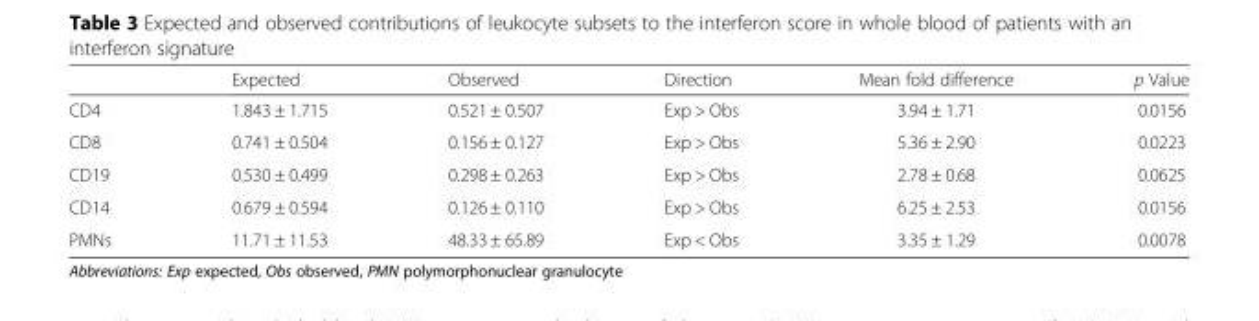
<table><thead><tr><td></td><td>Expected</td><td>Observed</td><td>Direction</td><td>Mean fold difference</td><td>p Value</td></tr></thead><tbody><tr><td>CD4</td><td>1.843 ± 1.715</td><td>0.521 ± 0.507</td><td>Exp &gt; Obs</td><td>3.94 ± 1.71</td><td>0.0156</td></tr><tr><td>CD8</td><td>0.741 ± 0.504</td><td>0.156 ± 0.127</td><td>Exp &gt; Obs</td><td>5.36 ± 2.90</td><td>0.0223</td></tr><tr><td>CD19</td><td>0.530 ± 0.499</td><td>0.298 ± 0.263</td><td>Exp &gt; Obs</td><td>2.78 ± 0.68</td><td>0.0625</td></tr><tr><td>CD14</td><td>0.679 ± 0.594</td><td>0.126 ± 0.110</td><td>Exp &gt; Obs</td><td>6.25 ± 2.53</td><td>0.0156</td></tr><tr><td>PMNs</td><td>11.71 ± 11.53</td><td>48.33 ± 65.89</td><td>Exp &lt; Obs</td><td>3.35 ± 1.29</td><td>0.0078</td></tr></tbody></table>